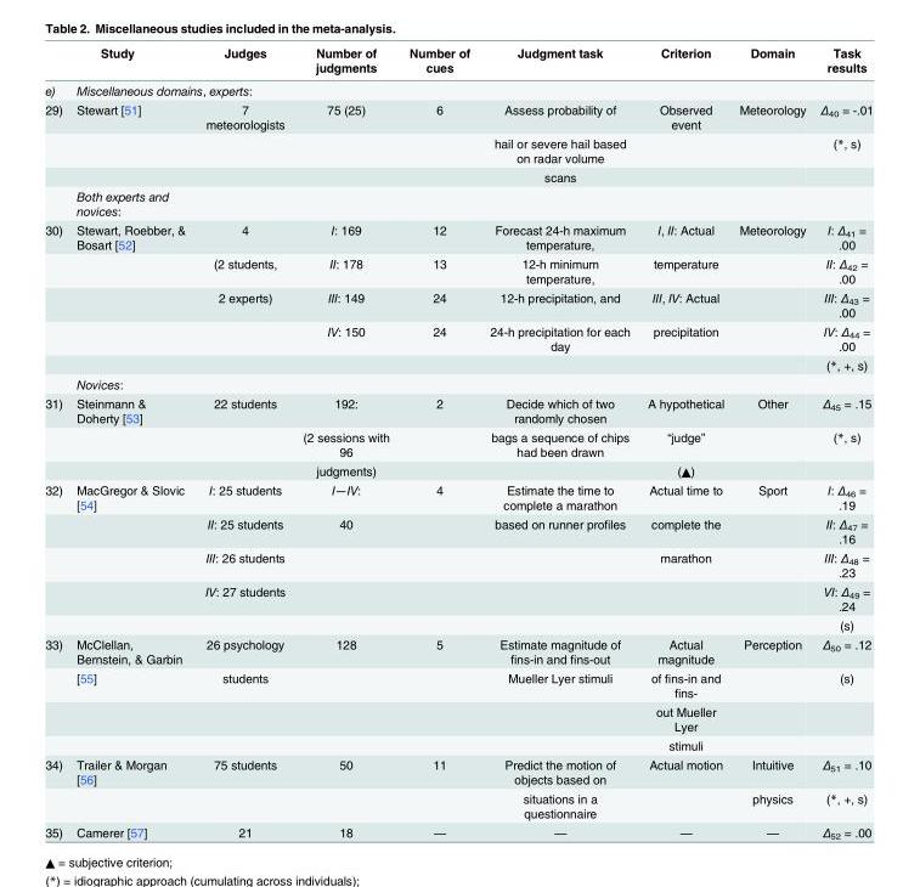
<table><thead><tr><td colspan="2">Study</td><td>Judges</td><td>Number of judgments</td><td>Number of cues</td><td>Judgment task</td><td>Criterion</td><td>Domain</td><td>Task results</td></tr><tr><td rowspan="2">e) 29)</td><td colspan="8">Miscellaneous domains, experts:</td></tr><tr><td>Stewart [51]</td><td>7 meteorologists</td><td>75 (25)</td><td>6</td><td>Assess probability of</td><td>Observed event</td><td>Meteorology</td><td>Δ<sub>40</sub> = -.01</td></tr></thead><tbody><tr><td></td><td></td><td></td><td></td><td></td><td>hail or severe hail based on radar volume</td><td></td><td></td><td>(*, s)</td></tr><tr><td></td><td></td><td></td><td></td><td></td><td>scans</td><td></td><td></td><td></td></tr><tr><td></td><td>Both experts and novices:</td><td></td><td></td><td></td><td></td><td></td><td></td><td></td></tr><tr><td rowspan="6">30)</td><td>Stewart, Roebber, &amp; Bosart [52]</td><td>4</td><td>I: 169</td><td>12</td><td>Forecast 24-h maximum temperature,</td><td>I, II: Actual</td><td>Meteorology</td><td>I: Δ<sub>41</sub> = .00</td></tr><tr><td></td><td>(2 students,</td><td>II: 178</td><td>13</td><td>12-h minimum temperature,</td><td>temperature</td><td></td><td>II: Δ<sub>42</sub> = .00</td></tr><tr><td></td><td>2 experts)</td><td>III: 149</td><td>24</td><td>12-h precipitation, and</td><td>III, IV: Actual</td><td></td><td>III: Δ<sub>43</sub> = .00</td></tr><tr><td></td><td></td><td>IV: 150</td><td>24</td><td>24-h precipitation for each day</td><td>precipitation</td><td></td><td>IV: Δ<sub>44</sub> = .00</td></tr><tr><td></td><td></td><td></td><td></td><td></td><td></td><td></td><td>(*, +, s)</td></tr><tr><td>Novices:</td><td></td><td></td><td></td><td></td><td></td><td></td><td></td></tr><tr><td rowspan="3">31)</td><td>Steinmann &amp; Doherty [53]</td><td>22 students</td><td>192:</td><td>2</td><td>Decide which of two randomly chosen</td><td>A hypothetical</td><td>Other</td><td>Δ<sub>45</sub> = .15</td></tr><tr><td></td><td></td><td>(2 sessions with 96</td><td></td><td>bags a sequence of chips had been drawn</td><td>“judge”</td><td></td><td>(*, s)</td></tr><tr><td></td><td></td><td>judgments)</td><td></td><td></td><td>(▲)</td><td></td><td></td></tr><tr><td rowspan="5">32)</td><td>MacGregor &amp; Slovic [54]</td><td>I: 25 students</td><td>I—IV:</td><td>4</td><td>Estimate the time to complete a marathon</td><td>Actual time to</td><td>Sport</td><td>I: Δ<sub>46</sub> = .19</td></tr><tr><td></td><td>II: 25 students</td><td>40</td><td></td><td>based on runner profiles</td><td>complete the</td><td></td><td>II: Δ<sub>47</sub> = .16</td></tr><tr><td></td><td>III: 26 students</td><td></td><td></td><td></td><td>marathon</td><td></td><td>III: Δ<sub>48</sub> = .23</td></tr><tr><td></td><td>IV: 27 students</td><td></td><td></td><td></td><td></td><td></td><td>VI: Δ<sub>49</sub> = .24</td></tr><tr><td></td><td></td><td></td><td></td><td></td><td></td><td></td><td>(s)</td></tr><tr><td rowspan="4">33)</td><td>McClellan, Bernstein, &amp; Garbin</td><td>26 psychology</td><td>128</td><td>5</td><td>Estimate magnitude of fins-in and fins-out</td><td>Actual magnitude</td><td>Perception</td><td>Δ<sub>50</sub> = .12</td></tr><tr><td>[55]</td><td>students</td><td></td><td></td><td>Mueller Lyer stimuli</td><td>of fins-in and fins-</td><td></td><td>(s)</td></tr><tr><td></td><td></td><td></td><td></td><td></td><td>out Mueller Lyer</td><td></td><td></td></tr><tr><td></td><td></td><td></td><td></td><td></td><td>stimuli</td><td></td><td></td></tr><tr><td rowspan="2">34)</td><td>Trailer &amp; Morgan [56]</td><td>75 students</td><td>50</td><td>11</td><td>Predict the motion of objects based on</td><td>Actual motion</td><td>Intuitive</td><td>Δ<sub>51</sub> = .10</td></tr><tr><td></td><td></td><td></td><td></td><td>situations in a questionnaire</td><td></td><td>physics</td><td>(*, +, s)</td></tr><tr><td>35)</td><td>Camerer [57]</td><td>21</td><td>18</td><td>—</td><td>—</td><td>—</td><td>—</td><td>Δ<sub>52</sub> = .00</td></tr></tbody></table>